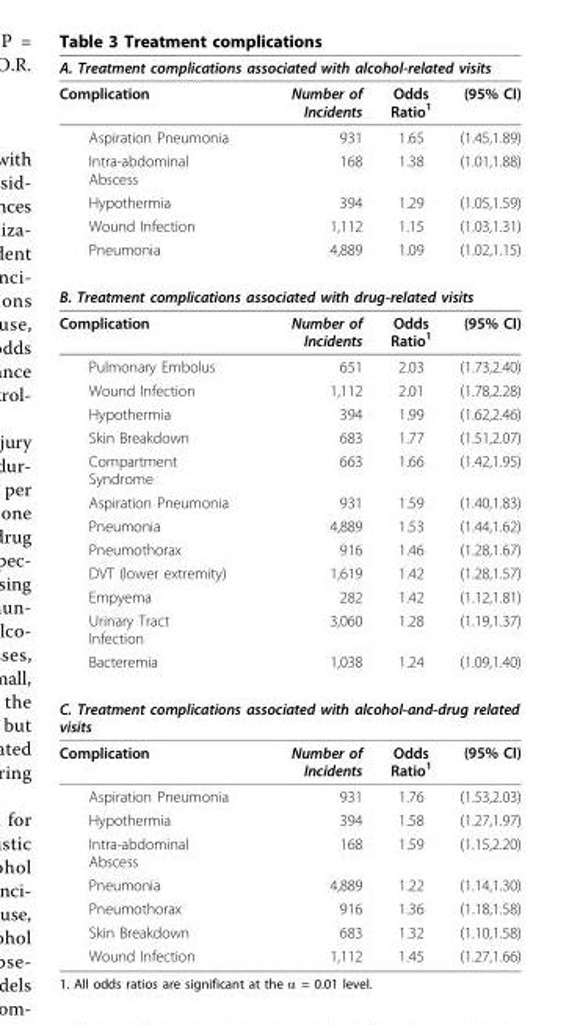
<table><thead><tr><td colspan="4">A. Treatment complications associated with alcohol-related visits</td></tr><tr><td>Complication</td><td>Number of Incidents</td><td>Odds Ratio<sup>1</sup></td><td>(95% CI)</td></tr></thead><tbody><tr><td>Aspiration Pneumonia</td><td>931</td><td>1.65</td><td>(1.45,1.89)</td></tr><tr><td>Intra-abdominal Abscess</td><td>168</td><td>1.38</td><td>(1.01,1.88)</td></tr><tr><td>Hypothermia</td><td>394</td><td>1.29</td><td>(1.05,1.59)</td></tr><tr><td>Wound Infection</td><td>1,112</td><td>1.15</td><td>(1.03,1.31)</td></tr><tr><td>Pneumonia</td><td>4,889</td><td>1.09</td><td>(1.02,1.15)</td></tr><tr><td colspan="4">B. Treatment complications associated with drug-related visits</td></tr><tr><td>Complication</td><td>Number of Incidents</td><td>Odds Ratio<sup>1</sup></td><td>(95% CI)</td></tr><tr><td>Pulmonary Embolus</td><td>651</td><td>2.03</td><td>(1.73,2.40)</td></tr><tr><td>Wound Infection</td><td>1,112</td><td>2.01</td><td>(1.78,2.28)</td></tr><tr><td>Hypothermia</td><td>394</td><td>1.99</td><td>(1.62,2.46)</td></tr><tr><td>Skin Breakdown</td><td>683</td><td>1.77</td><td>(1.51,2.07)</td></tr><tr><td>Compartment Syndrome</td><td>663</td><td>1.66</td><td>(1.42,1.95)</td></tr><tr><td>Aspiration Pneumonia</td><td>931</td><td>1.59</td><td>(1.40,1.83)</td></tr><tr><td>Pneumonia</td><td>4,889</td><td>1.53</td><td>(1.44,1.62)</td></tr><tr><td>Pneumothorax</td><td>916</td><td>1.46</td><td>(1.28,1.67)</td></tr><tr><td>DVT (lower extremity)</td><td>1,619</td><td>1.42</td><td>(1.28,1.57)</td></tr><tr><td>Empyema</td><td>282</td><td>1.42</td><td>(1.12,1.81)</td></tr><tr><td>Urinary Tract Infection</td><td>3,060</td><td>1.28</td><td>(1.19,1.37)</td></tr><tr><td>Bacteremia</td><td>1,038</td><td>1.24</td><td>(1.09,1.40)</td></tr><tr><td colspan="4">C. Treatment complications associated with alcohol-and-drug related visits</td></tr><tr><td>Complication</td><td>Number of Incidents</td><td>Odds Ratio<sup>1</sup></td><td>(95% CI)</td></tr><tr><td>Aspiration Pneumonia</td><td>931</td><td>1.76</td><td>(1.53,2.03)</td></tr><tr><td>Hypothermia</td><td>394</td><td>1.58</td><td>(1.27,1.97)</td></tr><tr><td>Intra-abdominal Abscess</td><td>168</td><td>1.59</td><td>(1.15,2.20)</td></tr><tr><td>Pneumonia</td><td>4,889</td><td>1.22</td><td>(1.14,1.30)</td></tr><tr><td>Pneumothorax</td><td>916</td><td>1.36</td><td>(1.18,1.58)</td></tr><tr><td>Skin Breakdown</td><td>683</td><td>1.32</td><td>(1.10,1.58)</td></tr><tr><td>Wound Infection</td><td>1,112</td><td>1.45</td><td>(1.27,1.66)</td></tr></tbody></table>